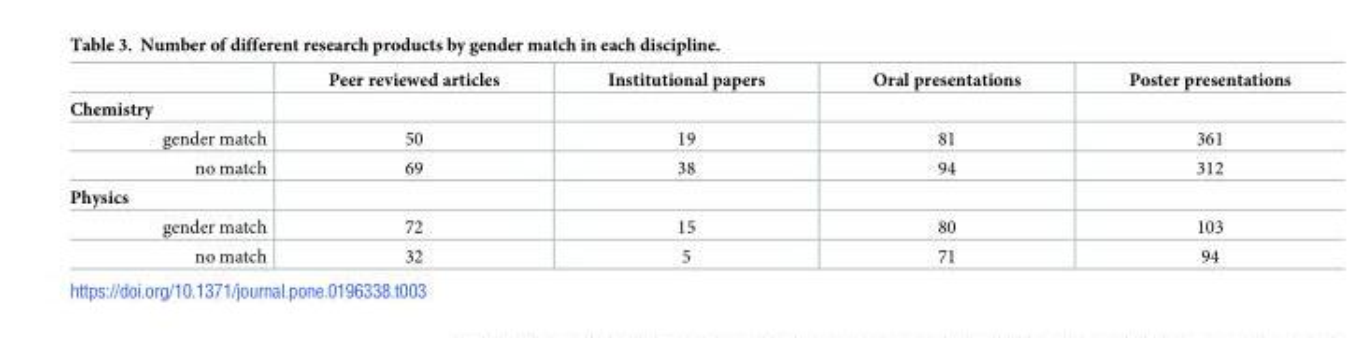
<table><thead><tr><td></td><td>Peer reviewed articles</td><td>Institutional papers</td><td>Oral presentations</td><td>Poster presentations</td></tr></thead><tbody><tr><td colspan="5">Chemistry</td></tr><tr><td>gender match</td><td>50</td><td>19</td><td>81</td><td>361</td></tr><tr><td>no match</td><td>69</td><td>38</td><td>94</td><td>312</td></tr><tr><td colspan="5">Physics</td></tr><tr><td>gender match</td><td>72</td><td>15</td><td>80</td><td>103</td></tr><tr><td>no match</td><td>32</td><td>5</td><td>71</td><td>94</td></tr></tbody></table>